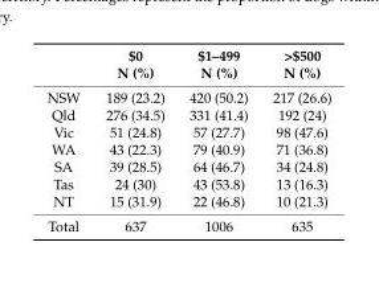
<table><thead><tr><td></td><td>$0 N (%)</td><td>$1–499 N (%)</td><td>&gt;$500 N (%)</td></tr></thead><tbody><tr><td>NSW</td><td>189 (23.2)</td><td>420 (50.2)</td><td>217 (26.6)</td></tr><tr><td>Qld</td><td>276 (34.5)</td><td>331 (41.4)</td><td>192 (24)</td></tr><tr><td>Vic</td><td>51 (24.8)</td><td>57 (27.7)</td><td>98 (47.6)</td></tr><tr><td>WA</td><td>43 (22.3)</td><td>79 (40.9)</td><td>71 (36.8)</td></tr><tr><td>SA</td><td>39 (28.5)</td><td>64 (46.7)</td><td>34 (24.8)</td></tr><tr><td>Tas</td><td>24 (30)</td><td>43 (53.8)</td><td>13 (16.3)</td></tr><tr><td>NT</td><td>15 (31.9)</td><td>22 (46.8)</td><td>10 (21.3)</td></tr><tr><td>Total</td><td>637</td><td>1006</td><td>635</td></tr></tbody></table>